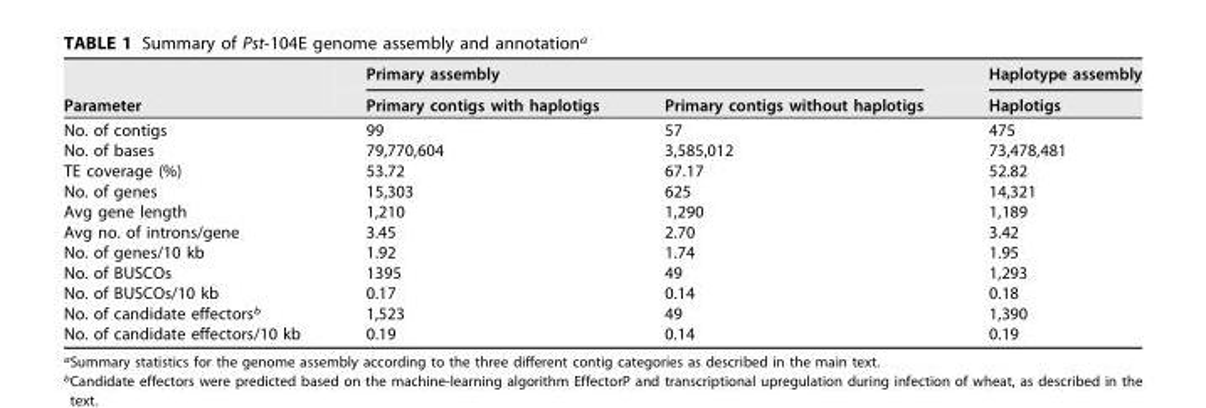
<table><thead><tr><td rowspan="2">Parameter</td><td colspan="2">Primary assembly</td><td rowspan="2">Haplotype assembly Haplotigs</td></tr><tr><td>Primary contigs with haplotigs</td><td>Primary contigs without haplotigs</td></tr></thead><tbody><tr><td>No. of contigs</td><td>99</td><td>57</td><td>475</td></tr><tr><td>No. of bases</td><td>79,770,604</td><td>3,585,012</td><td>73,478,481</td></tr><tr><td>TE coverage (%)</td><td>53.72</td><td>67.17</td><td>52.82</td></tr><tr><td>No. of genes</td><td>15,303</td><td>625</td><td>14,321</td></tr><tr><td>Avg gene length</td><td>1,210</td><td>1,290</td><td>1,189</td></tr><tr><td>Avg no. of introns/gene</td><td>3.45</td><td>2.70</td><td>3.42</td></tr><tr><td>No. of genes/10 kb</td><td>1.92</td><td>1.74</td><td>1.95</td></tr><tr><td>No. of BUSCOs</td><td>1395</td><td>49</td><td>1,293</td></tr><tr><td>No. of BUSCOs/10 kb</td><td>0.17</td><td>0.14</td><td>0.18</td></tr><tr><td>No. of candidate effectors<sup>b</sup></td><td>1,523</td><td>49</td><td>1,390</td></tr><tr><td>No. of candidate effectors/10 kb</td><td>0.19</td><td>0.14</td><td>0.19</td></tr></tbody></table>